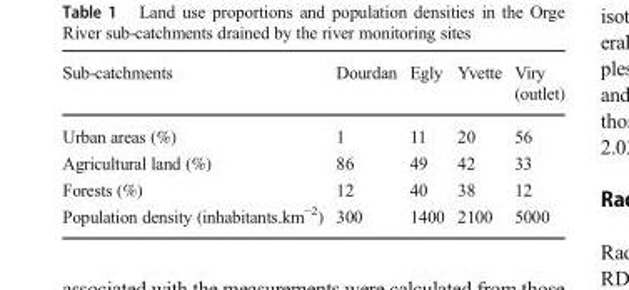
<table><thead><tr><td>Sub-catchments</td><td>Dourdan</td><td>Egly</td><td>Yvette</td><td>Viry (outlet)</td></tr></thead><tbody><tr><td>Urban areas (%)</td><td>1</td><td>11</td><td>20</td><td>56</td></tr><tr><td>Agricultural land (%)</td><td>86</td><td>49</td><td>42</td><td>33</td></tr><tr><td>Forests (%)</td><td>12</td><td>40</td><td>38</td><td>12</td></tr><tr><td>Population density (inhabitants.km<sup>−2</sup>)</td><td>300</td><td>1400</td><td>2100</td><td>5000</td></tr></tbody></table>